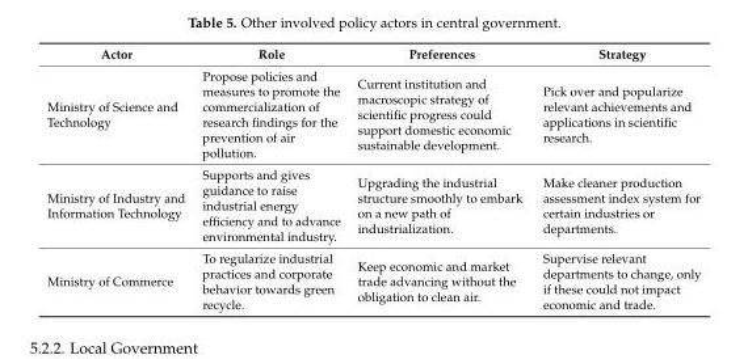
<table><thead><tr><td>Actor</td><td>Role</td><td>Preferences</td><td>Strategy</td></tr></thead><tbody><tr><td>Ministry of Science and Technology</td><td>Propose policies and measures to promote the commercialization of research findings for the prevention of air pollution.</td><td>Current institution and macroscopic strategy of scientific progress could support domestic economic sustainable development.</td><td>Pick over and popularize relevant achievements and applications in scientific research.</td></tr><tr><td>Ministry of Industry and Information Technology</td><td>Supports and gives guidance to raise industrial energy efficiency and to advance environmental industry.</td><td>Upgrading the industrial structure smoothly to embark on a new path of industrialization.</td><td>Make cleaner production assessment index system for certain industries or departments.</td></tr><tr><td>Ministry of Commerce</td><td>To regularize industrial practices and corporate behavior towards green recycle.</td><td>Keep economic and market trade advancing without the obligation to clean air.</td><td>Supervise relevant departments to change, only if these could not impact economic and trade.</td></tr></tbody></table>